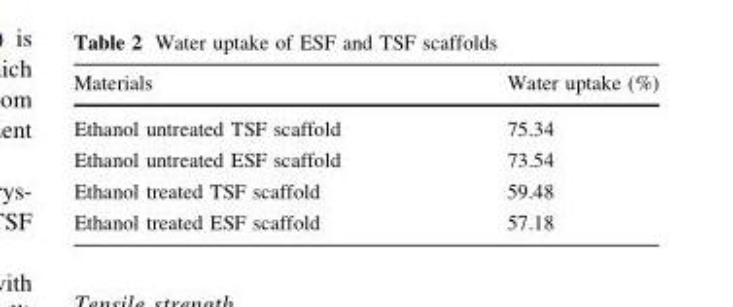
<table><thead><tr><td>Materials</td><td>Water uptake (%)</td></tr></thead><tbody><tr><td>Ethanol untreated TSF scaffold</td><td>75.34</td></tr><tr><td>Ethanol untreated ESF scaffold</td><td>73.54</td></tr><tr><td>Ethanol treated TSF scaffold</td><td>59.48</td></tr><tr><td>Ethanol treated ESF scaffold</td><td>57.18</td></tr></tbody></table>